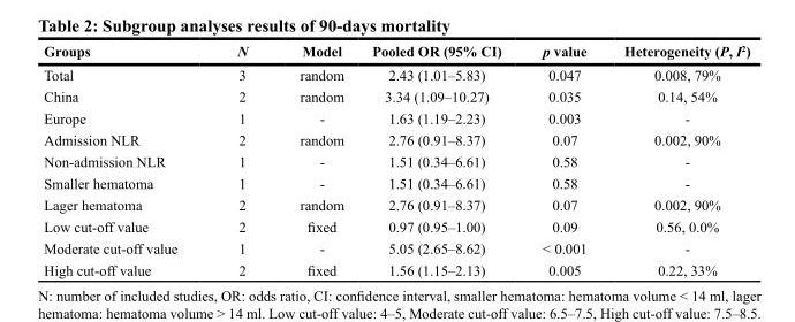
<table><thead><tr><td>Groups</td><td>N</td><td>Model</td><td>Pooled OR (95% CI)</td><td>p value</td><td>Heterogeneity (P, I<sup>2</sup>)</td></tr></thead><tbody><tr><td>Total</td><td>3</td><td>random</td><td>2.43 (1.01–5.83)</td><td>0.047</td><td>0.008, 79%</td></tr><tr><td>China</td><td>2</td><td>random</td><td>3.34 (1.09–10.27)</td><td>0.035</td><td>0.14, 54%</td></tr><tr><td>Europe</td><td>1</td><td>-</td><td>1.63 (1.19–2.23)</td><td>0.003</td><td>-</td></tr><tr><td>Admission NLR</td><td>2</td><td>random</td><td>2.76 (0.91–8.37)</td><td>0.07</td><td>0.002, 90%</td></tr><tr><td>Non-admission NLR</td><td>1</td><td>-</td><td>1.51 (0.34–6.61)</td><td>0.58</td><td>-</td></tr><tr><td>Smaller hematoma</td><td>1</td><td>-</td><td>1.51 (0.34–6.61)</td><td>0.58</td><td>-</td></tr><tr><td>Lager hematoma</td><td>2</td><td>random</td><td>2.76 (0.91–8.37)</td><td>0.07</td><td>0.002, 90%</td></tr><tr><td>Low cut-off value</td><td>2</td><td>fixed</td><td>0.97 (0.95–1.00)</td><td>0.09</td><td>0.56, 0.0%</td></tr><tr><td>Moderate cut-off value</td><td>1</td><td>-</td><td>5.05 (2.65–8.62)</td><td>&lt; 0.001</td><td>-</td></tr><tr><td>High cut-off value</td><td>2</td><td>fixed</td><td>1.56 (1.15–2.13)</td><td>0.005</td><td>0.22, 33%</td></tr></tbody></table>